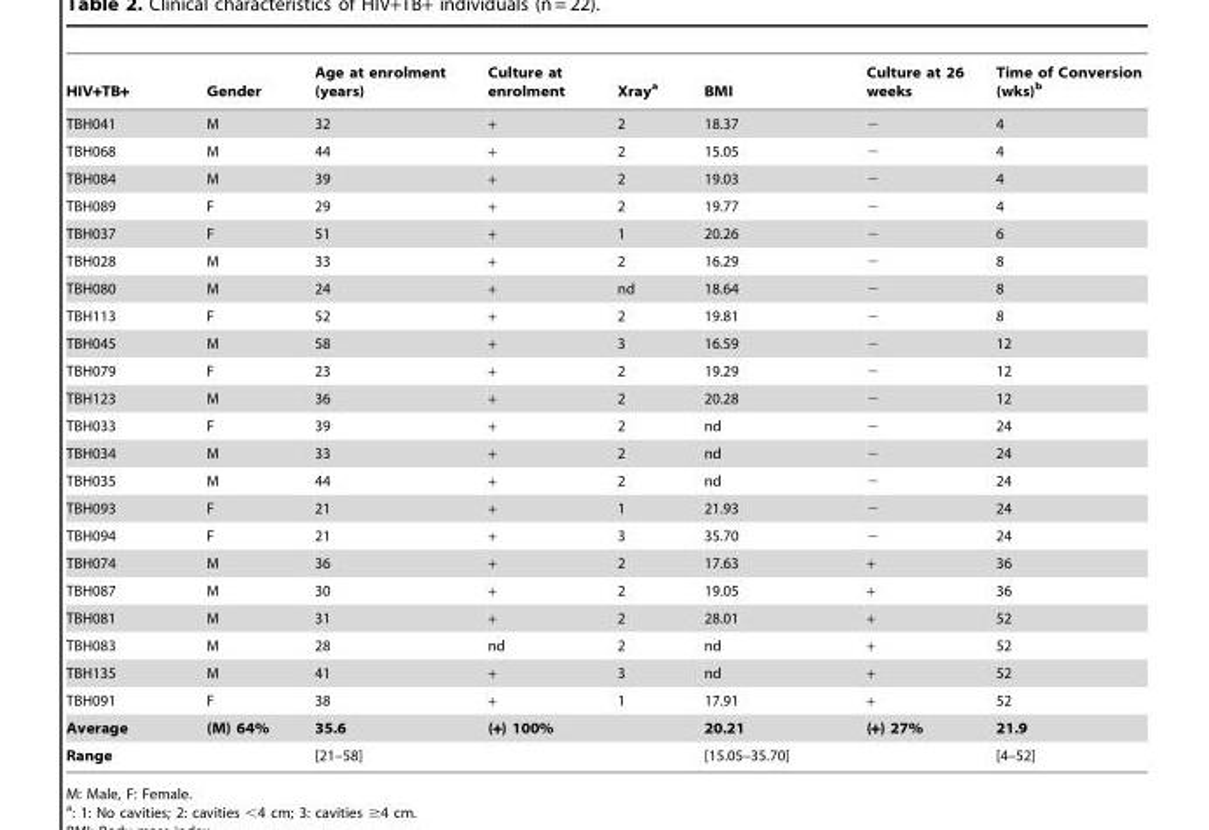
<table><thead><tr><td>HIV+TB+</td><td>Gender</td><td>Age at enrolment (years)</td><td>Culture at enrolment</td><td>Xray<sup>a</sup></td><td>BMI</td><td>Culture at 26 weeks</td><td>Time of Conversion (wks)<sup>b</sup></td></tr></thead><tbody><tr><td>TBH041</td><td>M</td><td>32</td><td>+</td><td>2</td><td>18.37</td><td>−</td><td>4</td></tr><tr><td>TBH068</td><td>M</td><td>44</td><td>+</td><td>2</td><td>15.05</td><td>−</td><td>4</td></tr><tr><td>TBH084</td><td>M</td><td>39</td><td>+</td><td>2</td><td>19.03</td><td>−</td><td>4</td></tr><tr><td>TBH089</td><td>F</td><td>29</td><td>+</td><td>2</td><td>19.77</td><td>−</td><td>4</td></tr><tr><td>TBH037</td><td>F</td><td>51</td><td>+</td><td>1</td><td>20.26</td><td>−</td><td>6</td></tr><tr><td>TBH028</td><td>M</td><td>33</td><td>+</td><td>2</td><td>16.29</td><td>−</td><td>8</td></tr><tr><td>TBH080</td><td>M</td><td>24</td><td>+</td><td>nd</td><td>18.64</td><td>−</td><td>8</td></tr><tr><td>TBH113</td><td>F</td><td>52</td><td>+</td><td>2</td><td>19.81</td><td>−</td><td>8</td></tr><tr><td>TBH045</td><td>M</td><td>58</td><td>+</td><td>3</td><td>16.59</td><td>−</td><td>12</td></tr><tr><td>TBH079</td><td>F</td><td>23</td><td>+</td><td>2</td><td>19.29</td><td>−</td><td>12</td></tr><tr><td>TBH123</td><td>M</td><td>36</td><td>+</td><td>2</td><td>20.28</td><td>−</td><td>12</td></tr><tr><td>TBH033</td><td>F</td><td>39</td><td>+</td><td>2</td><td>nd</td><td>−</td><td>24</td></tr><tr><td>TBH034</td><td>M</td><td>33</td><td>+</td><td>2</td><td>nd</td><td>−</td><td>24</td></tr><tr><td>TBH035</td><td>M</td><td>44</td><td>+</td><td>2</td><td>nd</td><td>−</td><td>24</td></tr><tr><td>TBH093</td><td>F</td><td>21</td><td>+</td><td>1</td><td>21.93</td><td>−</td><td>24</td></tr><tr><td>TBH094</td><td>F</td><td>21</td><td>+</td><td>3</td><td>35.70</td><td>−</td><td>24</td></tr><tr><td>TBH074</td><td>M</td><td>36</td><td>+</td><td>2</td><td>17.63</td><td>+</td><td>36</td></tr><tr><td>TBH087</td><td>M</td><td>30</td><td>+</td><td>2</td><td>19.05</td><td>+</td><td>36</td></tr><tr><td>TBH081</td><td>M</td><td>31</td><td>+</td><td>2</td><td>28.01</td><td>+</td><td>52</td></tr><tr><td>TBH083</td><td>M</td><td>28</td><td>nd</td><td>2</td><td>nd</td><td>+</td><td>52</td></tr><tr><td>TBH135</td><td>M</td><td>41</td><td>+</td><td>3</td><td>nd</td><td>+</td><td>52</td></tr><tr><td>TBH091</td><td>F</td><td>38</td><td>+</td><td>1</td><td>17.91</td><td>+</td><td>52</td></tr><tr><td>Average</td><td>(M) 64%</td><td>35.6</td><td>(+) 100%</td><td></td><td>20.21</td><td>(+) 27%</td><td>21.9</td></tr><tr><td>Range</td><td></td><td>[21–58]</td><td></td><td></td><td>[15.05–35.70]</td><td></td><td>[4–52]</td></tr></tbody></table>